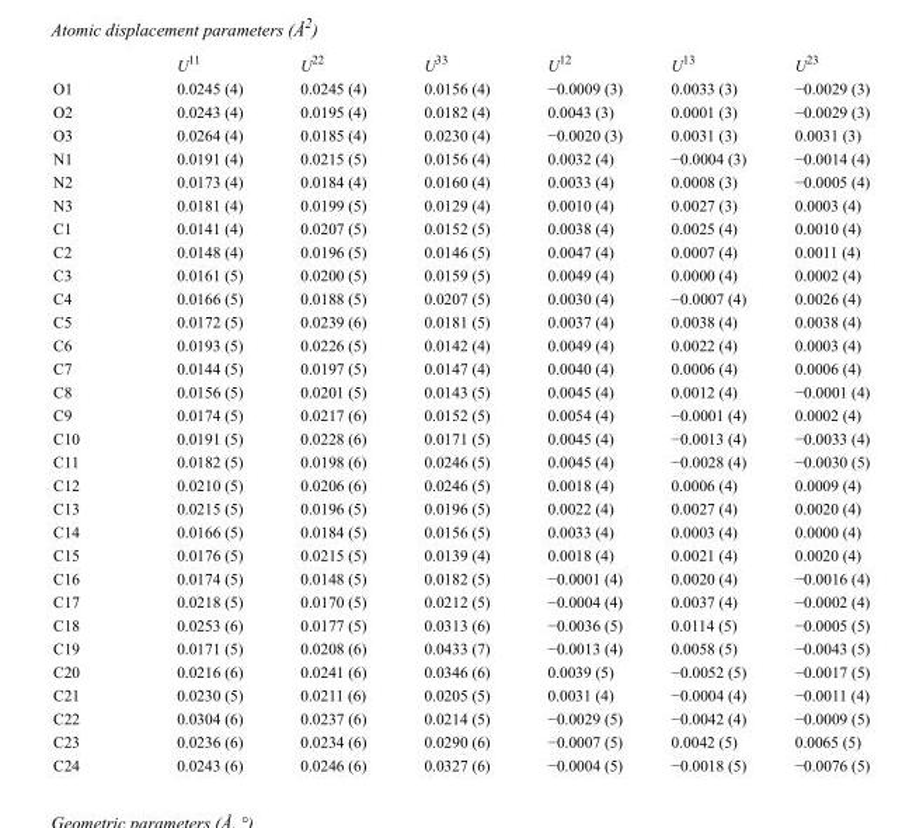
<table><thead><tr><td></td><td>U<sup>11</sup></td><td>U<sup>22</sup></td><td>U<sup>33</sup></td><td>U<sup>12</sup></td><td>U<sup>13</sup></td><td>U<sup>23</sup></td></tr></thead><tbody><tr><td>O1</td><td>0.0245 (4)</td><td>0.0245 (4)</td><td>0.0156 (4)</td><td>−0.0009 (3)</td><td>0.0033 (3)</td><td>−0.0029 (3)</td></tr><tr><td>O2</td><td>0.0243 (4)</td><td>0.0195 (4)</td><td>0.0182 (4)</td><td>0.0043 (3)</td><td>0.0001 (3)</td><td>−0.0029 (3)</td></tr><tr><td>O3</td><td>0.0264 (4)</td><td>0.0185 (4)</td><td>0.0230 (4)</td><td>−0.0020 (3)</td><td>0.0031 (3)</td><td>0.0031 (3)</td></tr><tr><td>N1</td><td>0.0191 (4)</td><td>0.0215 (5)</td><td>0.0156 (4)</td><td>0.0032 (4)</td><td>−0.0004 (3)</td><td>−0.0014 (4)</td></tr><tr><td>N2</td><td>0.0173 (4)</td><td>0.0184 (4)</td><td>0.0160 (4)</td><td>0.0033 (4)</td><td>0.0008 (3)</td><td>−0.0005 (4)</td></tr><tr><td>N3</td><td>0.0181 (4)</td><td>0.0199 (5)</td><td>0.0129 (4)</td><td>0.0010 (4)</td><td>0.0027 (3)</td><td>0.0003 (4)</td></tr><tr><td>C1</td><td>0.0141 (4)</td><td>0.0207 (5)</td><td>0.0152 (5)</td><td>0.0038 (4)</td><td>0.0025 (4)</td><td>0.0010 (4)</td></tr><tr><td>C2</td><td>0.0148 (4)</td><td>0.0196 (5)</td><td>0.0146 (5)</td><td>0.0047 (4)</td><td>0.0007 (4)</td><td>0.0011 (4)</td></tr><tr><td>C3</td><td>0.0161 (5)</td><td>0.0200 (5)</td><td>0.0159 (5)</td><td>0.0049 (4)</td><td>0.0000 (4)</td><td>0.0002 (4)</td></tr><tr><td>C4</td><td>0.0166 (5)</td><td>0.0188 (5)</td><td>0.0207 (5)</td><td>0.0030 (4)</td><td>−0.0007 (4)</td><td>0.0026 (4)</td></tr><tr><td>C5</td><td>0.0172 (5)</td><td>0.0239 (6)</td><td>0.0181 (5)</td><td>0.0037 (4)</td><td>0.0038 (4)</td><td>0.0038 (4)</td></tr><tr><td>C6</td><td>0.0193 (5)</td><td>0.0226 (5)</td><td>0.0142 (4)</td><td>0.0049 (4)</td><td>0.0022 (4)</td><td>0.0003 (4)</td></tr><tr><td>C7</td><td>0.0144 (5)</td><td>0.0197 (5)</td><td>0.0147 (4)</td><td>0.0040 (4)</td><td>0.0006 (4)</td><td>0.0006 (4)</td></tr><tr><td>C8</td><td>0.0156 (5)</td><td>0.0201 (5)</td><td>0.0143 (5)</td><td>0.0045 (4)</td><td>0.0012 (4)</td><td>−0.0001 (4)</td></tr><tr><td>C9</td><td>0.0174 (5)</td><td>0.0217 (6)</td><td>0.0152 (5)</td><td>0.0054 (4)</td><td>−0.0001 (4)</td><td>0.0002 (4)</td></tr><tr><td>C10</td><td>0.0191 (5)</td><td>0.0228 (6)</td><td>0.0171 (5)</td><td>0.0045 (4)</td><td>−0.0013 (4)</td><td>−0.0033 (4)</td></tr><tr><td>C11</td><td>0.0182 (5)</td><td>0.0198 (6)</td><td>0.0246 (5)</td><td>0.0045 (4)</td><td>−0.0028 (4)</td><td>−0.0030 (5)</td></tr><tr><td>C12</td><td>0.0210 (5)</td><td>0.0206 (6)</td><td>0.0246 (5)</td><td>0.0018 (4)</td><td>0.0006 (4)</td><td>0.0009 (4)</td></tr><tr><td>C13</td><td>0.0215 (5)</td><td>0.0196 (5)</td><td>0.0196 (5)</td><td>0.0022 (4)</td><td>0.0027 (4)</td><td>0.0020 (4)</td></tr><tr><td>C14</td><td>0.0166 (5)</td><td>0.0184 (5)</td><td>0.0156 (5)</td><td>0.0033 (4)</td><td>0.0003 (4)</td><td>0.0000 (4)</td></tr><tr><td>C15</td><td>0.0176 (5)</td><td>0.0215 (5)</td><td>0.0139 (4)</td><td>0.0018 (4)</td><td>0.0021 (4)</td><td>0.0020 (4)</td></tr><tr><td>C16</td><td>0.0174 (5)</td><td>0.0148 (5)</td><td>0.0182 (5)</td><td>−0.0001 (4)</td><td>0.0020 (4)</td><td>−0.0016 (4)</td></tr><tr><td>C17</td><td>0.0218 (5)</td><td>0.0170 (5)</td><td>0.0212 (5)</td><td>−0.0004 (4)</td><td>0.0037 (4)</td><td>−0.0002 (4)</td></tr><tr><td>C18</td><td>0.0253 (6)</td><td>0.0177 (5)</td><td>0.0313 (6)</td><td>−0.0036 (5)</td><td>0.0114 (5)</td><td>−0.0005 (5)</td></tr><tr><td>C19</td><td>0.0171 (5)</td><td>0.0208 (6)</td><td>0.0433 (7)</td><td>−0.0013 (4)</td><td>0.0058 (5)</td><td>−0.0043 (5)</td></tr><tr><td>C20</td><td>0.0216 (6)</td><td>0.0241 (6)</td><td>0.0346 (6)</td><td>0.0039 (5)</td><td>−0.0052 (5)</td><td>−0.0017 (5)</td></tr><tr><td>C21</td><td>0.0230 (5)</td><td>0.0211 (6)</td><td>0.0205 (5)</td><td>0.0031 (4)</td><td>−0.0004 (4)</td><td>−0.0011 (4)</td></tr><tr><td>C22</td><td>0.0304 (6)</td><td>0.0237 (6)</td><td>0.0214 (5)</td><td>−0.0029 (5)</td><td>−0.0042 (4)</td><td>−0.0009 (5)</td></tr><tr><td>C23</td><td>0.0236 (6)</td><td>0.0234 (6)</td><td>0.0290 (6)</td><td>−0.0007 (5)</td><td>0.0042 (5)</td><td>0.0065 (5)</td></tr><tr><td>C24</td><td>0.0243 (6)</td><td>0.0246 (6)</td><td>0.0327 (6)</td><td>−0.0004 (5)</td><td>−0.0018 (5)</td><td>−0.0076 (5)</td></tr></tbody></table>